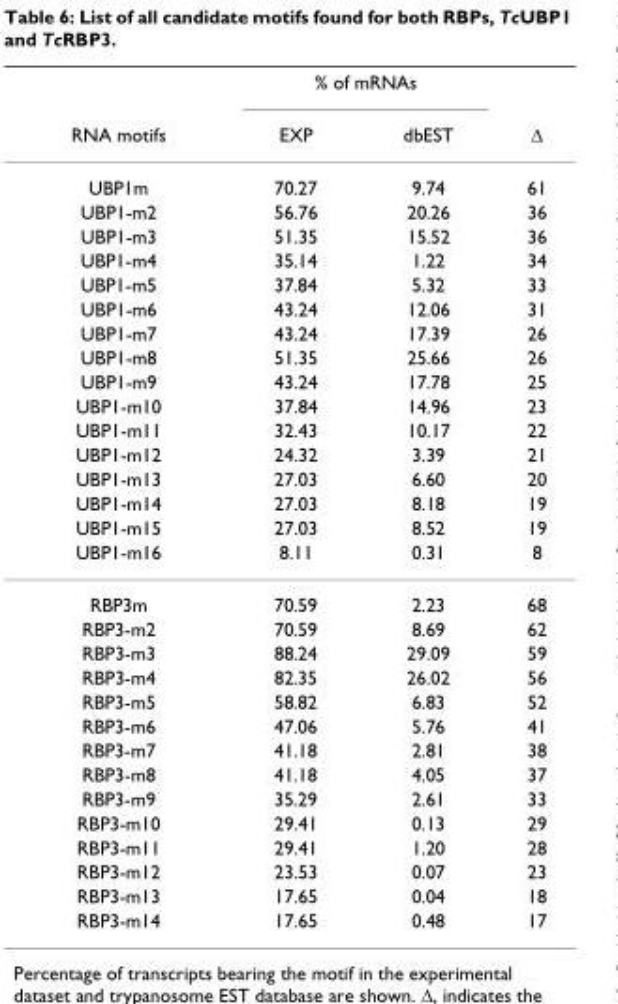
<table><thead><tr><td rowspan="2">RNA motifs</td><td colspan="2">% of mRNAs</td><td rowspan="2">Δ</td></tr><tr><td>EXP</td><td>dbEST</td></tr></thead><tbody><tr><td>UBP1m</td><td>70.27</td><td>9.74</td><td>61</td></tr><tr><td>UBP1-m2</td><td>56.76</td><td>20.26</td><td>36</td></tr><tr><td>UBP1-m3</td><td>51.35</td><td>15.52</td><td>36</td></tr><tr><td>UBP1-m4</td><td>35.14</td><td>1.22</td><td>34</td></tr><tr><td>UBP1-m5</td><td>37.84</td><td>5.32</td><td>33</td></tr><tr><td>UBP1-m6</td><td>43.24</td><td>12.06</td><td>31</td></tr><tr><td>UBP1-m7</td><td>43.24</td><td>17.39</td><td>26</td></tr><tr><td>UBP1-m8</td><td>51.35</td><td>25.66</td><td>26</td></tr><tr><td>UBP1-m9</td><td>43.24</td><td>17.78</td><td>25</td></tr><tr><td>UBP1-m10</td><td>37.84</td><td>14.96</td><td>23</td></tr><tr><td>UBP1-m11</td><td>32.43</td><td>10.17</td><td>22</td></tr><tr><td>UBP1-m12</td><td>24.32</td><td>3.39</td><td>21</td></tr><tr><td>UBP1-m13</td><td>27.03</td><td>6.60</td><td>20</td></tr><tr><td>UBP1-m14</td><td>27.03</td><td>8.18</td><td>19</td></tr><tr><td>UBP1-m15</td><td>27.03</td><td>8.52</td><td>19</td></tr><tr><td>UBP1-m16</td><td>8.11</td><td>0.31</td><td>8</td></tr><tr><td>RBP3m</td><td>70.59</td><td>2.23</td><td>68</td></tr><tr><td>RBP3-m2</td><td>70.59</td><td>8.69</td><td>62</td></tr><tr><td>RBP3-m3</td><td>88.24</td><td>29.09</td><td>59</td></tr><tr><td>RBP3-m4</td><td>82.35</td><td>26.02</td><td>56</td></tr><tr><td>RBP3-m5</td><td>58.82</td><td>6.83</td><td>52</td></tr><tr><td>RBP3-m6</td><td>47.06</td><td>5.76</td><td>41</td></tr><tr><td>RBP3-m7</td><td>41.18</td><td>2.81</td><td>38</td></tr><tr><td>RBP3-m8</td><td>41.18</td><td>4.05</td><td>37</td></tr><tr><td>RBP3-m9</td><td>35.29</td><td>2.61</td><td>33</td></tr><tr><td>RBP3-m10</td><td>29.41</td><td>0.13</td><td>29</td></tr><tr><td>RBP3-m11</td><td>29.41</td><td>1.20</td><td>28</td></tr><tr><td>RBP3-m12</td><td>23.53</td><td>0.07</td><td>23</td></tr><tr><td>RBP3-m13</td><td>17.65</td><td>0.04</td><td>18</td></tr><tr><td>RBP3-m14</td><td>17.65</td><td>0.48</td><td>17</td></tr></tbody></table>